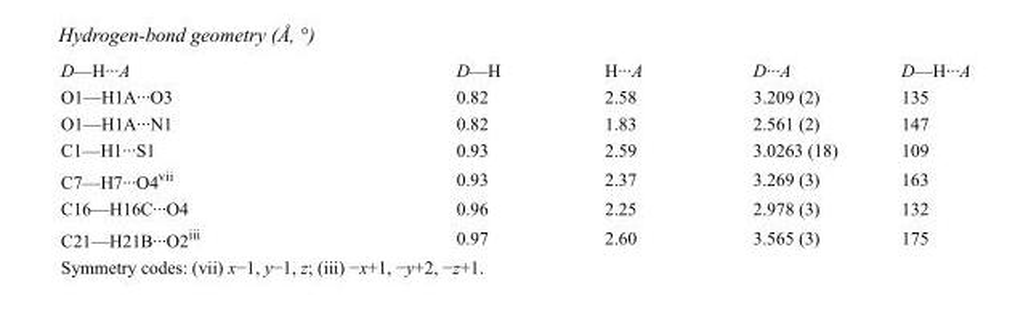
<table><tbody><tr><td>D—H···A</td><td>D—H</td><td>H···A</td><td>D···A</td><td>D—H···A</td></tr><tr><td>O1—H1A···O3</td><td>0.82</td><td>2.58</td><td>3.209 (2)</td><td>135</td></tr><tr><td>O1—H1A···N1</td><td>0.82</td><td>1.83</td><td>2.561 (2)</td><td>147</td></tr><tr><td>C1—H1···S1</td><td>0.93</td><td>2.59</td><td>3.0263 (18)</td><td>109</td></tr><tr><td>C7—H7···O4<sup>vii</sup></td><td>0.93</td><td>2.37</td><td>3.269 (3)</td><td>163</td></tr><tr><td>C16—H16C···O4</td><td>0.96</td><td>2.25</td><td>2.978 (3)</td><td>132</td></tr><tr><td>C21—H21B···O2<sup>iii</sup></td><td>0.97</td><td>2.60</td><td>3.565 (3)</td><td>175</td></tr></tbody></table>